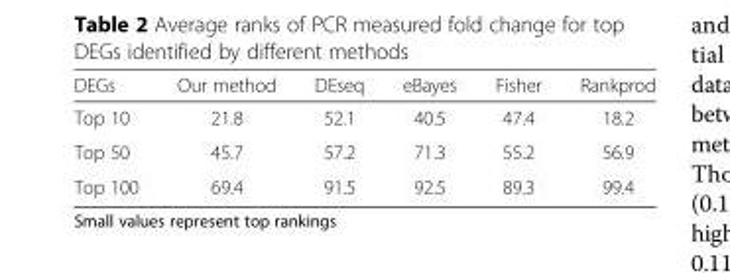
<table><thead><tr><td>DEGs</td><td>Our method</td><td>DEseq</td><td>eBayes</td><td>Fisher</td><td>Rankprod</td></tr></thead><tbody><tr><td>Top 10</td><td>21.8</td><td>52.1</td><td>40.5</td><td>47.4</td><td>18.2</td></tr><tr><td>Top 50</td><td>45.7</td><td>57.2</td><td>71.3</td><td>55.2</td><td>56.9</td></tr><tr><td>Top 100</td><td>69.4</td><td>91.5</td><td>92.5</td><td>89.3</td><td>99.4</td></tr></tbody></table>